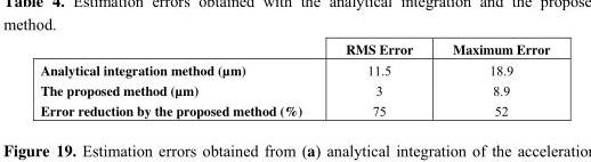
<table><thead><tr><td></td><td>RMS Error</td><td>Maximum Error</td></tr></thead><tbody><tr><td>Analytical integration method (µm)</td><td>11.5</td><td>18.9</td></tr><tr><td>The proposed method (µm)</td><td>3</td><td>8.9</td></tr><tr><td>Error reduction by the proposed method (%)</td><td>75</td><td>52</td></tr></tbody></table>